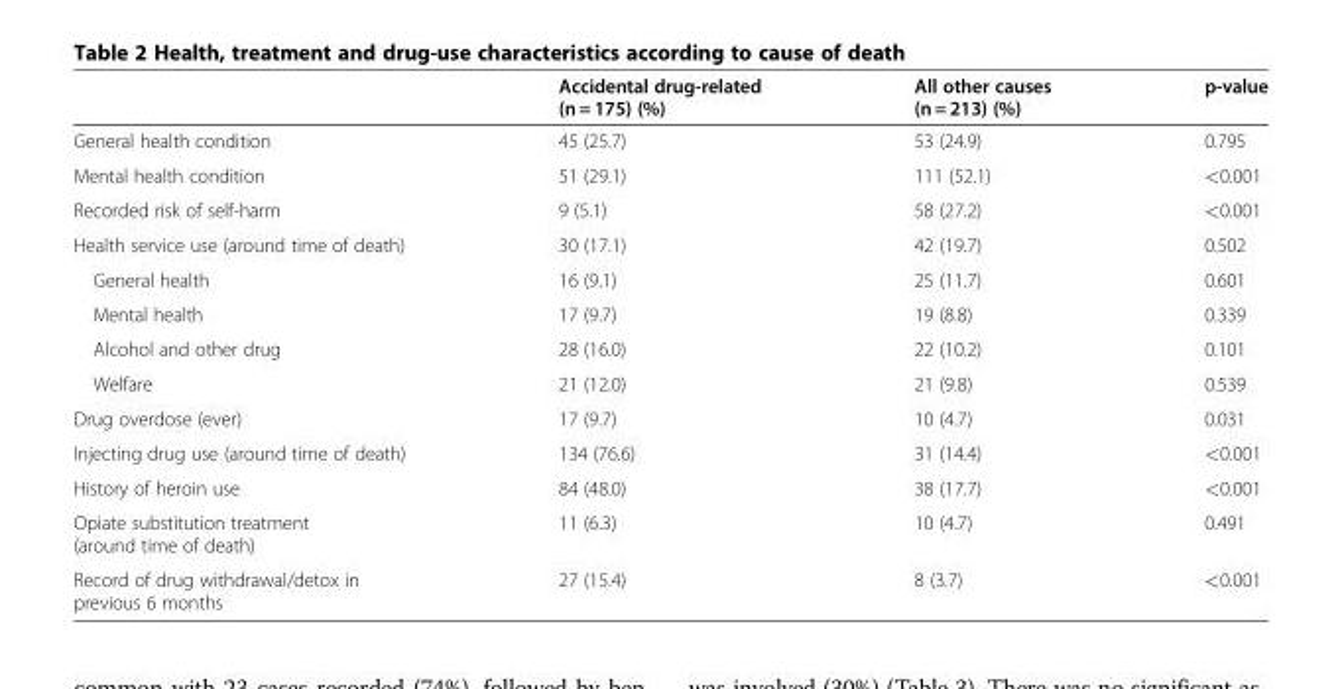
<table><thead><tr><td></td><td>Accidental drug-related (n = 175) (%)</td><td>All other causes (n = 213) (%)</td><td>p-value</td></tr></thead><tbody><tr><td>General health condition</td><td>45 (25.7)</td><td>53 (24.9)</td><td>0.795</td></tr><tr><td>Mental health condition</td><td>51 (29.1)</td><td>111 (52.1)</td><td>&lt;0.001</td></tr><tr><td>Recorded risk of self-harm</td><td>9 (5.1)</td><td>58 (27.2)</td><td>&lt;0.001</td></tr><tr><td>Health service use (around time of death)</td><td>30 (17.1)</td><td>42 (19.7)</td><td>0.502</td></tr><tr><td>General health</td><td>16 (9.1)</td><td>25 (11.7)</td><td>0.601</td></tr><tr><td>Mental health</td><td>17 (9.7)</td><td>19 (8.8)</td><td>0.339</td></tr><tr><td>Alcohol and other drug</td><td>28 (16.0)</td><td>22 (10.2)</td><td>0.101</td></tr><tr><td>Welfare</td><td>21 (12.0)</td><td>21 (9.8)</td><td>0.539</td></tr><tr><td>Drug overdose (ever)</td><td>17 (9.7)</td><td>10 (4.7)</td><td>0.031</td></tr><tr><td>Injecting drug use (around time of death)</td><td>134 (76.6)</td><td>31 (14.4)</td><td>&lt;0.001</td></tr><tr><td>History of heroin use</td><td>84 (48.0)</td><td>38 (17.7)</td><td>&lt;0.001</td></tr><tr><td>Opiate substitution treatment (around time of death)</td><td>11 (6.3)</td><td>10 (4.7)</td><td>0.491</td></tr><tr><td>Record of drug withdrawal/detox in previous 6 months</td><td>27 (15.4)</td><td>8 (3.7)</td><td>&lt;0.001</td></tr></tbody></table>